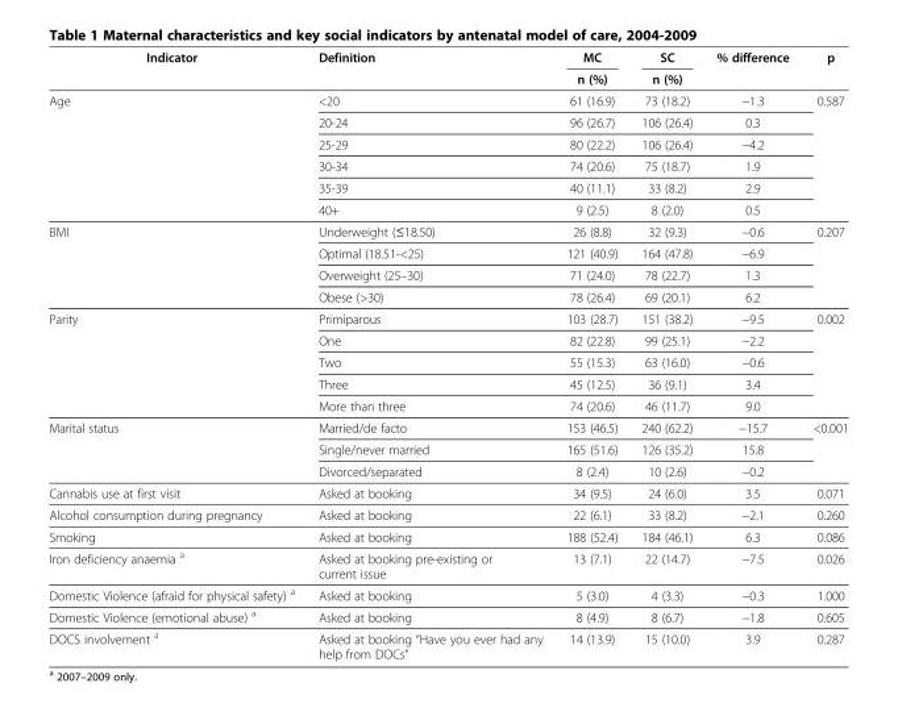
<table><thead><tr><td rowspan="2">Indicator</td><td rowspan="2">Definition</td><td rowspan="2">MC n (%)</td><td rowspan="2">SC n (%)</td><td rowspan="2">% difference</td><td rowspan="2">p</td></tr><tr></tr></thead><tbody><tr><td rowspan="6">Age</td><td>&lt;20</td><td>61 (16.9)</td><td>73 (18.2)</td><td>−1.3</td><td rowspan="6">0.587</td></tr><tr><td>20-24</td><td>96 (26.7)</td><td>106 (26.4)</td><td>0.3</td></tr><tr><td>25-29</td><td>80 (22.2)</td><td>106 (26.4)</td><td>−4.2</td></tr><tr><td>30-34</td><td>74 (20.6)</td><td>75 (18.7)</td><td>1.9</td></tr><tr><td>35-39</td><td>40 (11.1)</td><td>33 (8.2)</td><td>2.9</td></tr><tr><td>40+</td><td>9 (2.5)</td><td>8 (2.0)</td><td>0.5</td></tr><tr><td rowspan="4">BMI</td><td>Underweight (≤18.50)</td><td>26 (8.8)</td><td>32 (9.3)</td><td>−0.6</td><td rowspan="4">0.207</td></tr><tr><td>Optimal (18.51-&lt;25)</td><td>121 (40.9)</td><td>164 (47.8)</td><td>−6.9</td></tr><tr><td>Overweight (25–30)</td><td>71 (24.0)</td><td>78 (22.7)</td><td>1.3</td></tr><tr><td>Obese (&gt;30)</td><td>78 (26.4)</td><td>69 (20.1)</td><td>6.2</td></tr><tr><td rowspan="5">Parity</td><td>Primiparous</td><td>103 (28.7)</td><td>151 (38.2)</td><td>−9.5</td><td rowspan="5">0.002</td></tr><tr><td>One</td><td>82 (22.8)</td><td>99 (25.1)</td><td>−2.2</td></tr><tr><td>Two</td><td>55 (15.3)</td><td>63 (16.0)</td><td>−0.6</td></tr><tr><td>Three</td><td>45 (12.5)</td><td>36 (9.1)</td><td>3.4</td></tr><tr><td>More than three</td><td>74 (20.6)</td><td>46 (11.7)</td><td>9.0</td></tr><tr><td rowspan="3">Marital status</td><td>Married/de facto</td><td>153 (46.5)</td><td>240 (62.2)</td><td>−15.7</td><td rowspan="3">&lt;0.001</td></tr><tr><td>Single/never married</td><td>165 (51.6)</td><td>126 (35.2)</td><td>15.8</td></tr><tr><td>Divorced/separated</td><td>8 (2.4)</td><td>10 (2.6)</td><td>−0.2</td></tr><tr><td>Cannabis use at first visit</td><td>Asked at booking</td><td>34 (9.5)</td><td>24 (6.0)</td><td>3.5</td><td>0.071</td></tr><tr><td>Alcohol consumption during pregnancy</td><td>Asked at booking</td><td>22 (6.1)</td><td>33 (8.2)</td><td>−2.1</td><td>0.260</td></tr><tr><td>Smoking</td><td>Asked at booking</td><td>188 (52.4)</td><td>184 (46.1)</td><td>6.3</td><td>0.086</td></tr><tr><td>Iron deficiency anaemia <sup>a</sup></td><td>Asked at booking pre-existing or current issue</td><td>13 (7.1)</td><td>22 (14.7)</td><td>−7.5</td><td>0.026</td></tr><tr><td>Domestic Violence (afraid for physical safety) <sup>a</sup></td><td>Asked at booking</td><td>5 (3.0)</td><td>4 (3.3)</td><td>−0.3</td><td>1.000</td></tr><tr><td>Domestic Violence (emotional abuse) <sup>a</sup></td><td>Asked at booking</td><td>8 (4.9)</td><td>8 (6.7)</td><td>−1.8</td><td>0.605</td></tr><tr><td>DOCS involvement <sup>a</sup></td><td>Asked at booking “Have you ever had any help from DOCs”</td><td>14 (13.9)</td><td>15 (10.0)</td><td>3.9</td><td>0.287</td></tr></tbody></table>